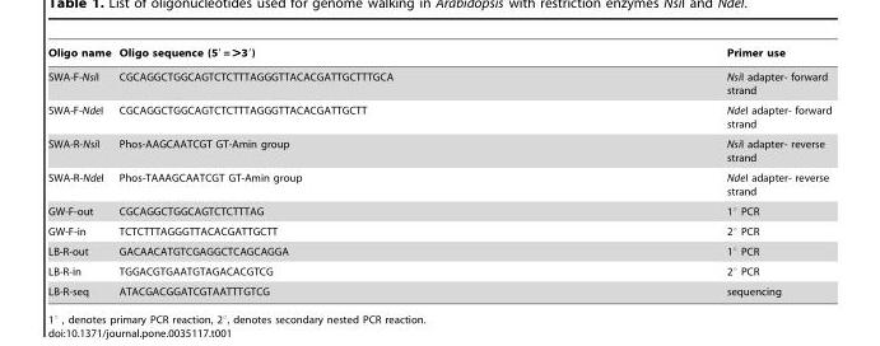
<table><thead><tr><td>Oligo name</td><td>Oligo sequence (5′ = &gt;3′)</td><td>Primer use</td></tr></thead><tbody><tr><td>SWA-F-NsiI</td><td>CGCAGGCTGGCAGTCTCTTTAGGGTTACACGATTGCTTTGCA</td><td>NsiI adapter- forward strand</td></tr><tr><td>SWA-F-NdeI</td><td>CGCAGGCTGGCAGTCTCTTTAGGGTTACACGATTGCTT</td><td>NdeI adapter- forward strand</td></tr><tr><td>SWA-R-NsiI</td><td>Phos-AAGCAATCGT GT-Amin group</td><td>NsiI adapter- reverse strand</td></tr><tr><td>SWA-R-NdeI</td><td>Phos-TAAAGCAATCGT GT-Amin group</td><td>NdeI adapter- reverse strand</td></tr><tr><td>GW-F-out</td><td>CGCAGGCTGGCAGTCTCTTTAG</td><td>1° PCR</td></tr><tr><td>GW-F-in</td><td>TCTCTTTAGGGTTACACGATTGCTT</td><td>2° PCR</td></tr><tr><td>LB-R-out</td><td>GACAACATGTCGAGGCTCAGCAGGA</td><td>1° PCR</td></tr><tr><td>LB-R-in</td><td>TGGACGTGAATGTAGACACGTCG</td><td>2° PCR</td></tr><tr><td>LB-R-seq</td><td>ATACGACGGATCGTAATTTGTCG</td><td>sequencing</td></tr></tbody></table>